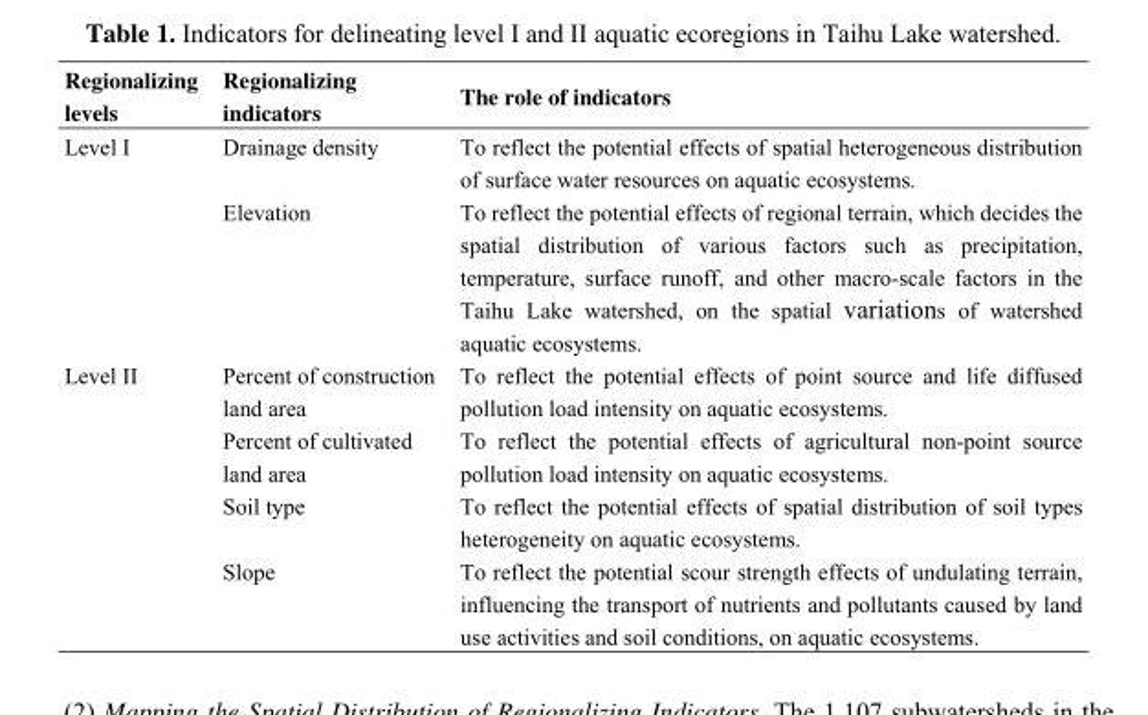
<table><thead><tr><td>Regionalizing levels</td><td>Regionalizing indicators</td><td>The role of indicators</td></tr></thead><tbody><tr><td rowspan="2">Level I</td><td>Drainage density</td><td>To reflect the potential effects of spatial heterogeneous distribution of surface water resources on aquatic ecosystems.</td></tr><tr><td>Elevation</td><td>To reflect the potential effects of regional terrain, which decides the spatial distribution of various factors such as precipitation, temperature, surface runoff, and other macro-scale factors in the Taihu Lake watershed, on the spatial variations of watershed aquatic ecosystems.</td></tr><tr><td rowspan="4">Level II</td><td>Percent of construction land area</td><td>To reflect the potential effects of point source and life diffused pollution load intensity on aquatic ecosystems.</td></tr><tr><td>Percent of cultivated land area</td><td>To reflect the potential effects of agricultural non-point source pollution load intensity on aquatic ecosystems.</td></tr><tr><td>Soil type</td><td>To reflect the potential effects of spatial distribution of soil types heterogeneity on aquatic ecosystems.</td></tr><tr><td>Slope</td><td>To reflect the potential scour strength effects of undulating terrain, influencing the transport of nutrients and pollutants caused by land use activities and soil conditions, on aquatic ecosystems.</td></tr></tbody></table>